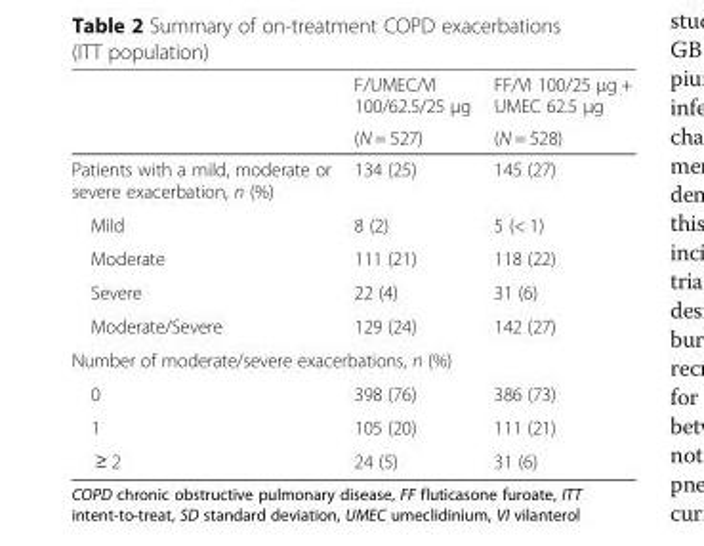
<table><thead><tr><td rowspan="2"></td><td rowspan="2">F/UMEC/VI 100/62.5/25 μg (N = 527)</td><td rowspan="2">FF/VI 100/25 μg + UMEC 62.5 μg (N = 528)</td></tr><tr></tr></thead><tbody><tr><td>Patients with a mild, moderate or severe exacerbation, n (%)</td><td>134 (25)</td><td>145 (27)</td></tr><tr><td>Mild</td><td>8 (2)</td><td>5 (&lt; 1)</td></tr><tr><td>Moderate</td><td>111 (21)</td><td>118 (22)</td></tr><tr><td>Severe</td><td>22 (4)</td><td>31 (6)</td></tr><tr><td>Moderate/Severe</td><td>129 (24)</td><td>142 (27)</td></tr><tr><td colspan="3">Number of moderate/severe exacerbations, n (%)</td></tr><tr><td>0</td><td>398 (76)</td><td>386 (73)</td></tr><tr><td>1</td><td>105 (20)</td><td>111 (21)</td></tr><tr><td>≥ 2</td><td>24 (5)</td><td>31 (6)</td></tr></tbody></table>